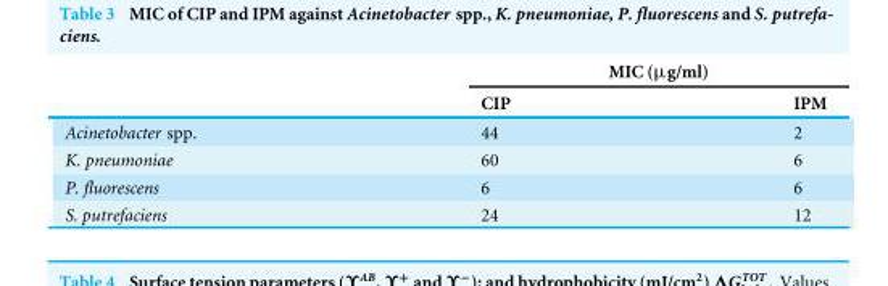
<table><thead><tr><td rowspan="2"></td><td colspan="2">MIC (µg/ml)</td></tr><tr><td>CIP</td><td>IPM</td></tr></thead><tbody><tr><td>;Acinetobacter spp.</td><td>44</td><td>2</td></tr><tr><td>;K. pneumoniae</td><td>60</td><td>6</td></tr><tr><td>;P. fluorescens</td><td>6</td><td>6</td></tr><tr><td>;S. putrefaciens</td><td>24</td><td>12</td></tr></tbody></table>